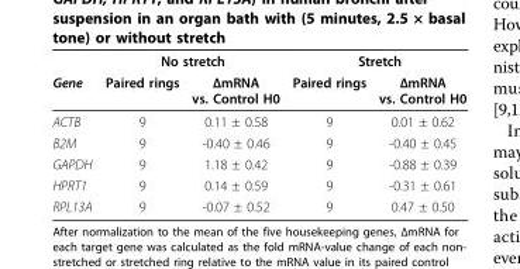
<table><thead><tr><td rowspan="2">Gene</td><td colspan="2">No stretch</td><td colspan="2">Stretch</td></tr><tr><td>Paired rings</td><td>ΔmRNA vs. Control H0</td><td>Paired rings</td><td>ΔmRNA vs. Control H0</td></tr></thead><tbody><tr><td>ACTB</td><td>9</td><td>0.11 ± 0.58</td><td>9</td><td>0.01 ± 0.62</td></tr><tr><td>B2M</td><td>9</td><td>-0.40 ± 0.46</td><td>9</td><td>-0.40 ± 0.45</td></tr><tr><td>GAPDH</td><td>9</td><td>1.18 ± 0.42</td><td>9</td><td>-0.88 ± 0.39</td></tr><tr><td>HPRT1</td><td>9</td><td>0.14 ± 0.59</td><td>9</td><td>-0.31 ± 0.61</td></tr><tr><td>RPL13A</td><td>9</td><td>-0.07 ± 0.52</td><td>9</td><td>0.47 ± 0.50</td></tr></tbody></table>